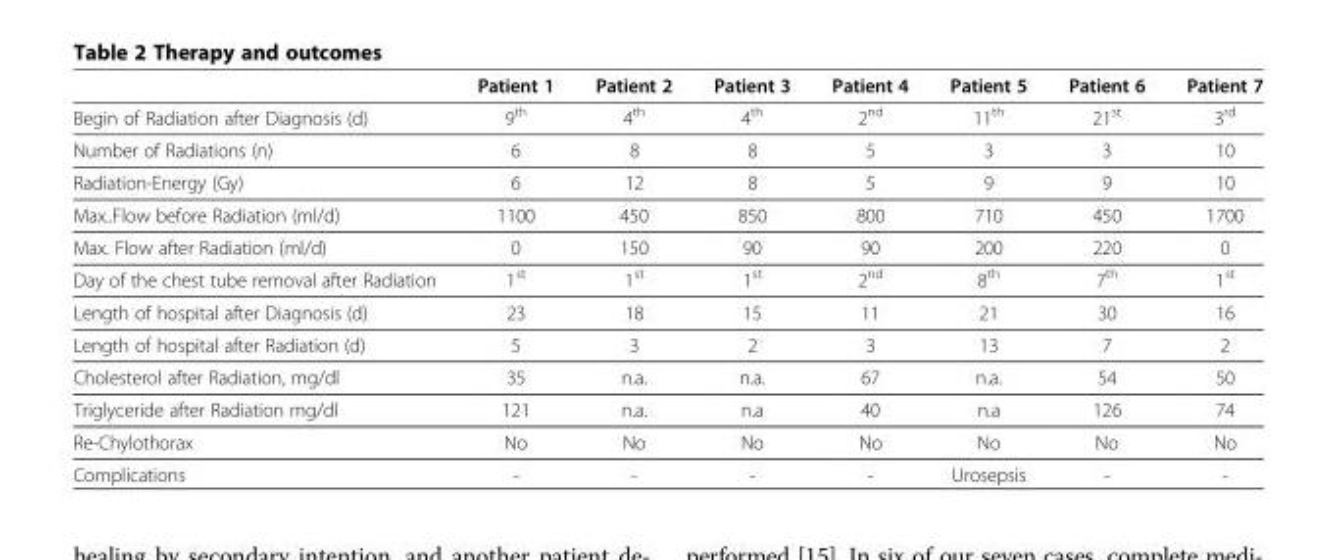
<table><thead><tr><td></td><td>Patient 1</td><td>Patient 2</td><td>Patient 3</td><td>Patient 4</td><td>Patient 5</td><td>Patient 6</td><td>Patient 7</td></tr></thead><tbody><tr><td>Begin of Radiation after Diagnosis (d)</td><td>9<sup>th</sup></td><td>4<sup>th</sup></td><td>4<sup>th</sup></td><td>2<sup>nd</sup></td><td>11<sup>th</sup></td><td>21<sup>st</sup></td><td>3<sup>rd</sup></td></tr><tr><td>Number of Radiations (n)</td><td>6</td><td>8</td><td>8</td><td>5</td><td>3</td><td>3</td><td>10</td></tr><tr><td>Radiation-Energy (Gy)</td><td>6</td><td>12</td><td>8</td><td>5</td><td>9</td><td>9</td><td>10</td></tr><tr><td>Max..Flow before Radiation (ml/d)</td><td>1100</td><td>450</td><td>850</td><td>800</td><td>710</td><td>450</td><td>1700</td></tr><tr><td>Max. Flow after Radiation (ml/d)</td><td>0</td><td>150</td><td>90</td><td>90</td><td>200</td><td>220</td><td>0</td></tr><tr><td>Day of the chest tube removal after Radiation</td><td>1<sup>st</sup></td><td>1<sup>st</sup></td><td>1<sup>st</sup></td><td>2<sup>nd</sup></td><td>8<sup>th</sup></td><td>7<sup>th</sup></td><td>1<sup>st</sup></td></tr><tr><td>Length of hospital after Diagnosis (d)</td><td>23</td><td>18</td><td>15</td><td>11</td><td>21</td><td>30</td><td>16</td></tr><tr><td>Length of hospital after Radiation (d)</td><td>5</td><td>3</td><td>2</td><td>3</td><td>13</td><td>7</td><td>2</td></tr><tr><td>Cholesterol after Radiation, mg/dl</td><td>35</td><td>n.a.</td><td>n.a.</td><td>67</td><td>n.a.</td><td>54</td><td>50</td></tr><tr><td>Triglyceride after Radiation mg/dl</td><td>121</td><td>n.a.</td><td>n.a</td><td>40</td><td>n.a</td><td>126</td><td>74</td></tr><tr><td>Re-Chylothorax</td><td>No</td><td>No</td><td>No</td><td>No</td><td>No</td><td>No</td><td>No</td></tr><tr><td>Complications</td><td>-</td><td>-</td><td>-</td><td>-</td><td>Urosepsis</td><td>-</td><td>-</td></tr></tbody></table>